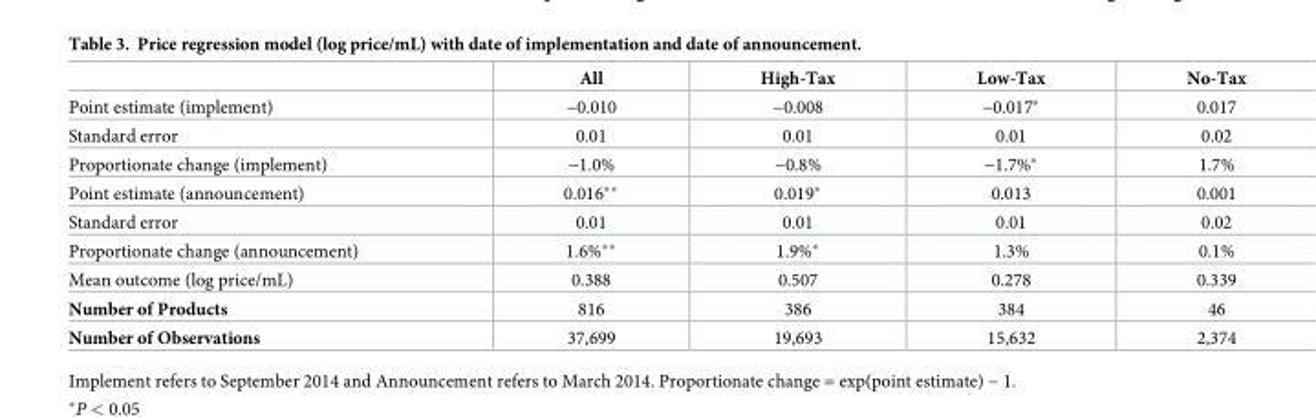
<table><thead><tr><td></td><td>All</td><td>High-Tax</td><td>Low-Tax</td><td>No-Tax</td></tr></thead><tbody><tr><td>Point estimate (implement)</td><td>−0.010</td><td>−0.008</td><td>−0.017*</td><td>0.017</td></tr><tr><td>Standard error</td><td>0.01</td><td>0.01</td><td>0.01</td><td>0.02</td></tr><tr><td>Proportionate change (implement)</td><td>−1.0%</td><td>−0.8%</td><td>−1.7%*</td><td>1.7%</td></tr><tr><td>Point estimate (announcement)</td><td>0.016**</td><td>0.019*</td><td>0.013</td><td>0.001</td></tr><tr><td>Standard error</td><td>0.01</td><td>0.01</td><td>0.01</td><td>0.02</td></tr><tr><td>Proportionate change (announcement)</td><td>1.6%**</td><td>1.9%*</td><td>1.3%</td><td>0.1%</td></tr><tr><td>Mean outcome (log price/mL)</td><td>0.388</td><td>0.507</td><td>0.278</td><td>0.339</td></tr><tr><td>Number of Products</td><td>816</td><td>386</td><td>384</td><td>46</td></tr><tr><td>Number of Observations</td><td>37,699</td><td>19,693</td><td>15,632</td><td>2,374</td></tr></tbody></table>